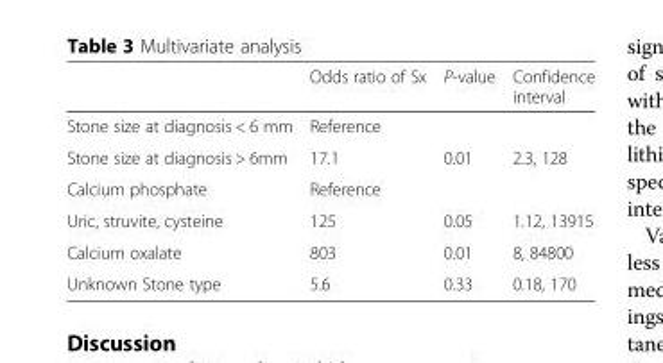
<table><thead><tr><td></td><td>Odds ratio of Sx</td><td>P-value</td><td>Confidence interval</td></tr></thead><tbody><tr><td>Stone size at diagnosis &lt; 6 mm</td><td>Reference</td><td></td><td></td></tr><tr><td>Stone size at diagnosis &gt; 6mm</td><td>17.1</td><td>0.01</td><td>2.3, 128</td></tr><tr><td>Calcium phosphate</td><td>Reference</td><td></td><td></td></tr><tr><td>Uric, struvite, cysteine</td><td>125</td><td>0.05</td><td>1.12, 13915</td></tr><tr><td>Calcium oxalate</td><td>803</td><td>0.01</td><td>8, 84800</td></tr><tr><td>Unknown Stone type</td><td>5.6</td><td>0.33</td><td>0.18, 170</td></tr></tbody></table>